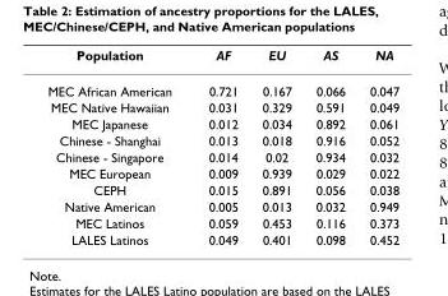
<table><thead><tr><td>Population</td><td>AF</td><td>EU</td><td>AS</td><td>NA</td></tr></thead><tbody><tr><td>MEC African American</td><td>0.721</td><td>0.167</td><td>0.066</td><td>0.047</td></tr><tr><td>MEC Native Hawaiian</td><td>0.031</td><td>0.329</td><td>0.591</td><td>0.049</td></tr><tr><td>MEC Japanese</td><td>0.012</td><td>0.034</td><td>0.892</td><td>0.061</td></tr><tr><td>Chinese - Shanghai</td><td>0.013</td><td>0.018</td><td>0.916</td><td>0.052</td></tr><tr><td>Chinese - Singapore</td><td>0.014</td><td>0.02</td><td>0.934</td><td>0.032</td></tr><tr><td>MEC European</td><td>0.009</td><td>0.939</td><td>0.029</td><td>0.022</td></tr><tr><td>CEPH</td><td>0.015</td><td>0.891</td><td>0.056</td><td>0.038</td></tr><tr><td>Native American</td><td>0.005</td><td>0.013</td><td>0.032</td><td>0.949</td></tr><tr><td>MEC Latinos</td><td>0.059</td><td>0.453</td><td>0.116</td><td>0.373</td></tr><tr><td>LALES Latinos</td><td>0.049</td><td>0.401</td><td>0.098</td><td>0.452</td></tr></tbody></table>